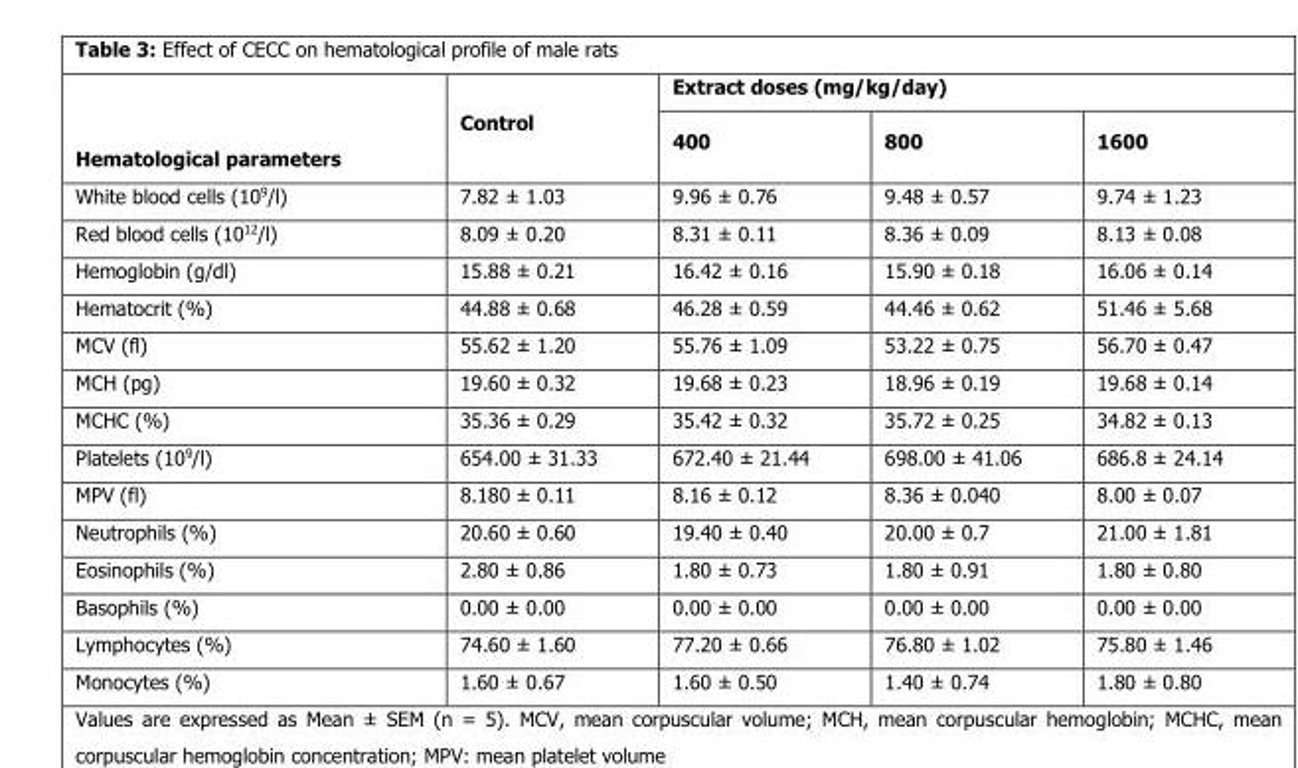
<table><thead><tr><td rowspan="2">Hematological parameters</td><td rowspan="2">Control</td><td colspan="3">Extract doses (mg/kg/day)</td></tr><tr><td>400</td><td>800</td><td>1600</td></tr></thead><tbody><tr><td>White blood cells (10<sup>9</sup>/l)</td><td>7.82 ± 1.03</td><td>9.96 ± 0.76</td><td>9.48 ± 0.57</td><td>9.74 ± 1.23</td></tr><tr><td>Red blood cells (10<sup>12</sup>/l)</td><td>8.09 ± 0.20</td><td>8.31 ± 0.11</td><td>8.36 ± 0.09</td><td>8.13 ± 0.08</td></tr><tr><td>Hemoglobin (g/dl)</td><td>15.88 ± 0.21</td><td>16.42 ± 0.16</td><td>15.90 ± 0.18</td><td>16.06 ± 0.14</td></tr><tr><td>Hematocrit (%)</td><td>44.88 ± 0.68</td><td>46.28 ± 0.59</td><td>44.46 ± 0.62</td><td>51.46 ± 5.68</td></tr><tr><td>MCV (fl)</td><td>55.62 ± 1.20</td><td>55.76 ± 1.09</td><td>53.22 ± 0.75</td><td>56.70 ± 0.47</td></tr><tr><td>MCH (pg)</td><td>19.60 ± 0.32</td><td>19.68 ± 0.23</td><td>18.96 ± 0.19</td><td>19.68 ± 0.14</td></tr><tr><td>MCHC (%)</td><td>35.36 ± 0.29</td><td>35.42 ± 0.32</td><td>35.72 ± 0.25</td><td>34.82 ± 0.13</td></tr><tr><td>Platelets (10<sup>9</sup>/l)</td><td>654.00 ± 31.33</td><td>672.40 ± 21.44</td><td>698.00 ± 41.06</td><td>686.8 ± 24.14</td></tr><tr><td>MPV (fl)</td><td>8.180 ± 0.11</td><td>8.16 ± 0.12</td><td>8.36 ± 0.040</td><td>8.00 ± 0.07</td></tr><tr><td>Neutrophils (%)</td><td>20.60 ± 0.60</td><td>19.40 ± 0.40</td><td>20.00 ± 0.7</td><td>21.00 ± 1.81</td></tr><tr><td>Eosinophils (%)</td><td>2.80 ± 0.86</td><td>1.80 ± 0.73</td><td>1.80 ± 0.91</td><td>1.80 ± 0.80</td></tr><tr><td>Basophils (%)</td><td>0.00 ± 0.00</td><td>0.00 ± 0.00</td><td>0.00 ± 0.00</td><td>0.00 ± 0.00</td></tr><tr><td>Lymphocytes (%)</td><td>74.60 ± 1.60</td><td>77.20 ± 0.66</td><td>76.80 ± 1.02</td><td>75.80 ± 1.46</td></tr><tr><td>Monocytes (%)</td><td>1.60 ± 0.67</td><td>1.60 ± 0.50</td><td>1.40 ± 0.74</td><td>1.80 ± 0.80</td></tr></tbody></table>